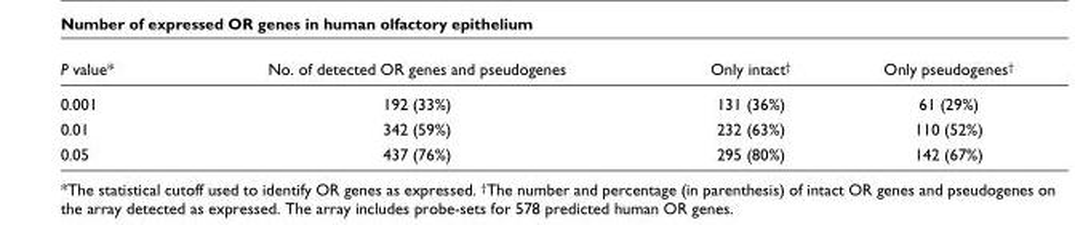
<table><thead><tr><td>P value*</td><td>No. of detected OR genes and pseudogenes</td><td>Only intact<sup>†</sup></td><td>Only pseudogenes<sup>†</sup></td></tr></thead><tbody><tr><td>0.001</td><td>192 (33%)</td><td>131 (36%)</td><td>61 (29%)</td></tr><tr><td>0.01</td><td>342 (59%)</td><td>232 (63%)</td><td>110 (52%)</td></tr><tr><td>0.05</td><td>437 (76%)</td><td>295 (80%)</td><td>142 (67%)</td></tr></tbody></table>